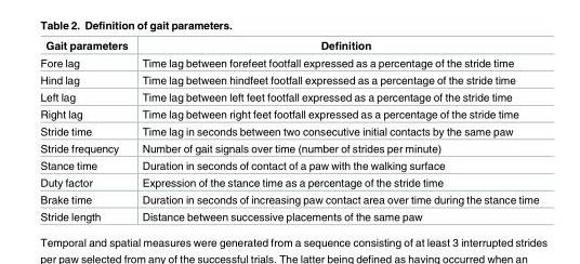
<table><thead><tr><td>Gait parameters</td><td>Definition</td></tr></thead><tbody><tr><td>Fore lag</td><td>Time lag between forefeet footfall expressed as a percentage of the stride time</td></tr><tr><td>Hind lag</td><td>Time lag between hindfeet footfall expressed as a percentage of the stride time</td></tr><tr><td>Left lag</td><td>Time lag between left feet footfall expressed as a percentage of the stride time</td></tr><tr><td>Right lag</td><td>Time lag between right feet footfall expressed as a percentage of the stride time</td></tr><tr><td>Stride time</td><td>Time lag in seconds between two consecutive initial contacts by the same paw</td></tr><tr><td>Stride frequency</td><td>Number of gait signals over time (number of strides per minute)</td></tr><tr><td>Stance time</td><td>Duration in seconds of contact of a paw with the walking surface</td></tr><tr><td>Duty factor</td><td>Expression of the stance time as a percentage of the stride time</td></tr><tr><td>Brake time</td><td>Duration in seconds of increasing paw contact area over time during the stance time</td></tr><tr><td>Stride length</td><td>Distance between successive placements of the same paw</td></tr></tbody></table>